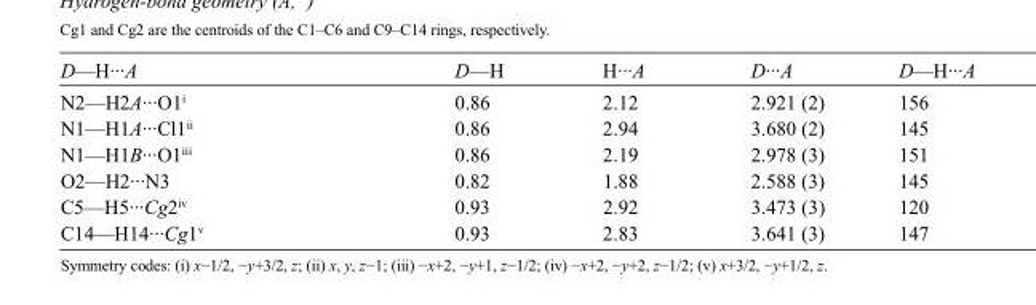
<table><tbody><tr><td>D—H···A</td><td>D—H</td><td>H···A</td><td>D···A</td><td>D—H···A</td></tr><tr><td>N2—H2A···O1<sup>i</sup></td><td>0.86</td><td>2.12</td><td>2.921 (2)</td><td>156</td></tr><tr><td>N1—H1A···Cl1<sup>ii</sup></td><td>0.86</td><td>2.94</td><td>3.680 (2)</td><td>145</td></tr><tr><td>N1—H1B···O1<sup>iii</sup></td><td>0.86</td><td>2.19</td><td>2.978 (3)</td><td>151</td></tr><tr><td>O2—H2···N3</td><td>0.82</td><td>1.88</td><td>2.588 (3)</td><td>145</td></tr><tr><td>C5—H5···Cg2<sup>iv</sup></td><td>0.93</td><td>2.92</td><td>3.473 (3)</td><td>120</td></tr><tr><td>C14—H14···Cg1<sup>v</sup></td><td>0.93</td><td>2.83</td><td>3.641 (3)</td><td>147</td></tr></tbody></table>